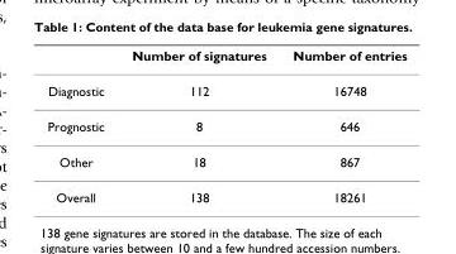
<table><thead><tr><td></td><td>Number of signatures</td><td>Number of entries</td></tr></thead><tbody><tr><td>Diagnostic</td><td>112</td><td>16748</td></tr><tr><td>Prognostic</td><td>8</td><td>646</td></tr><tr><td>Other</td><td>18</td><td>867</td></tr><tr><td>Overall</td><td>138</td><td>18261</td></tr></tbody></table>